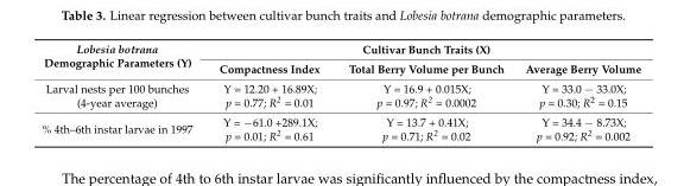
<table><thead><tr><td rowspan="2">Lobesia botrana Demographic Parameters (Y)</td><td colspan="3">Cultivar Bunch Traits (X)</td></tr><tr><td>Compactness Index</td><td>Total Berry Volume per Bunch</td><td>Average Berry Volume</td></tr></thead><tbody><tr><td>Larval nests per 100 bunches (4-year average)</td><td>Y = 12.20 + 16.89X; p = 0.77; R<sup>2</sup> = 0.01</td><td>Y = 16.9 + 0.015X; p = 0.97; R<sup>2</sup> = 0.0002</td><td>Y = 33.0 − 33.0X; p = 0.30; R<sup>2</sup> = 0.15</td></tr><tr><td>% 4th–6th instar larvae in 1997</td><td>Y = −61.0 +289.1X; p = 0.01; R<sup>2</sup> = 0.61</td><td>Y = 13.7 + 0.41X; p = 0.71; R<sup>2</sup> = 0.02</td><td>Y = 34.4 − 8.73X; p = 0.92; R<sup>2</sup> = 0.002</td></tr></tbody></table>